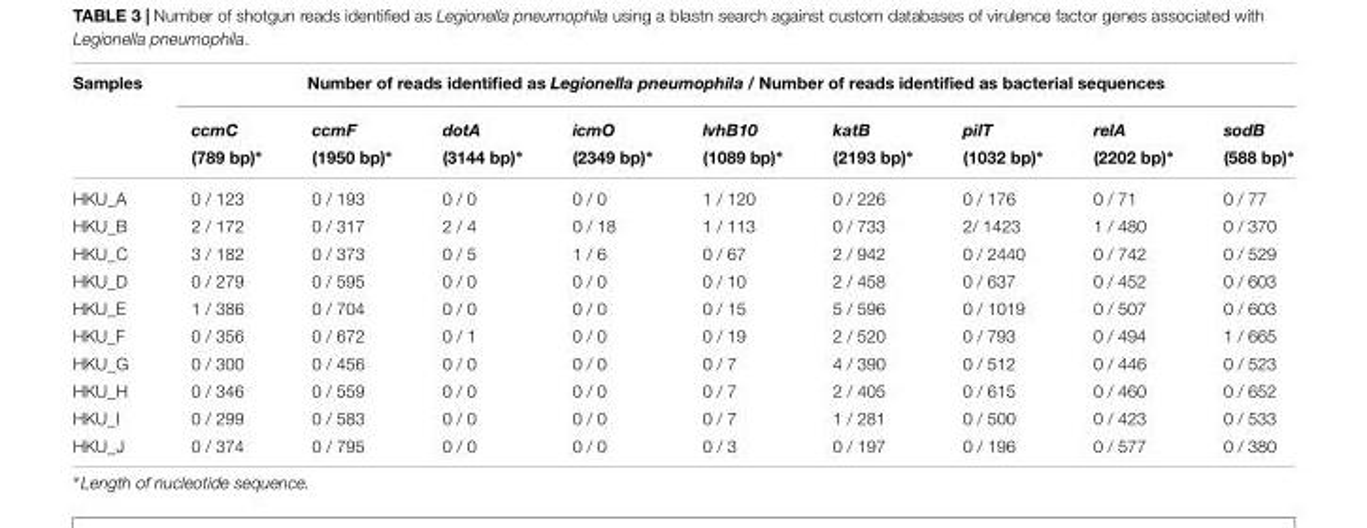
<table><thead><tr><td rowspan="3">Samples</td><td colspan="9">Number of reads identified as Legionella pneumophila / Number of reads identified as bacterial sequences</td></tr><tr><td rowspan="2">ccmC (789 bp)∗</td><td rowspan="2">ccmF (1950 bp)∗</td><td rowspan="2">dotA (3144 bp)∗</td><td rowspan="2">icmO (2349 bp)∗</td><td rowspan="2">lvhB10 (1089 bp)∗</td><td rowspan="2">katB (2193 bp)∗</td><td rowspan="2">pilT (1032 bp)∗</td><td rowspan="2">relA (2202 bp)∗</td><td rowspan="2">sodB (588 bp)∗</td></tr><tr></tr></thead><tbody><tr><td>HKU_A</td><td>0 / 123</td><td>0 / 193</td><td>0 / 0</td><td>0 / 0</td><td>1 / 120</td><td>0 / 226</td><td>0 / 176</td><td>0 / 71</td><td>0 / 77</td></tr><tr><td>HKU_B</td><td>2 / 172</td><td>0 / 317</td><td>2 / 4</td><td>0 / 18</td><td>1 / 113</td><td>0 / 733</td><td>2/ 1423</td><td>1 / 480</td><td>0 / 370</td></tr><tr><td>HKU_C</td><td>3 / 182</td><td>0 / 373</td><td>0 / 5</td><td>1 / 6</td><td>0 / 67</td><td>2 / 942</td><td>0 / 2440</td><td>0 / 742</td><td>0 / 529</td></tr><tr><td>HKU_D</td><td>0 / 279</td><td>0 / 595</td><td>0 / 0</td><td>0 / 0</td><td>0 / 10</td><td>2 / 458</td><td>0 / 637</td><td>0 / 452</td><td>0 / 603</td></tr><tr><td>HKU_E</td><td>1 / 386</td><td>0 / 704</td><td>0 / 0</td><td>0 / 0</td><td>0 / 15</td><td>5 / 596</td><td>0 / 1019</td><td>0 / 507</td><td>0 / 603</td></tr><tr><td>HKU_F</td><td>0 / 356</td><td>0 / 672</td><td>0 / 1</td><td>0 / 0</td><td>0 / 19</td><td>2 / 520</td><td>0 / 793</td><td>0 / 494</td><td>1 / 665</td></tr><tr><td>HKU_G</td><td>0 / 300</td><td>0 / 456</td><td>0 / 0</td><td>0 / 0</td><td>0 / 7</td><td>4 / 390</td><td>0 / 512</td><td>0 / 446</td><td>0 / 523</td></tr><tr><td>HKU_H</td><td>0 / 346</td><td>0 / 559</td><td>0 / 0</td><td>0 / 0</td><td>0 / 7</td><td>2 / 405</td><td>0 / 615</td><td>0 / 460</td><td>0 / 652</td></tr><tr><td>HKU_I</td><td>0 / 299</td><td>0 / 583</td><td>0 / 0</td><td>0 / 0</td><td>0 / 7</td><td>1 / 281</td><td>0 / 500</td><td>0 / 423</td><td>0 / 533</td></tr><tr><td>HKU_J</td><td>0 / 374</td><td>0 / 795</td><td>0 / 0</td><td>0 / 0</td><td>0 / 3</td><td>0 / 197</td><td>0 / 196</td><td>0 / 577</td><td>0 / 380</td></tr></tbody></table>